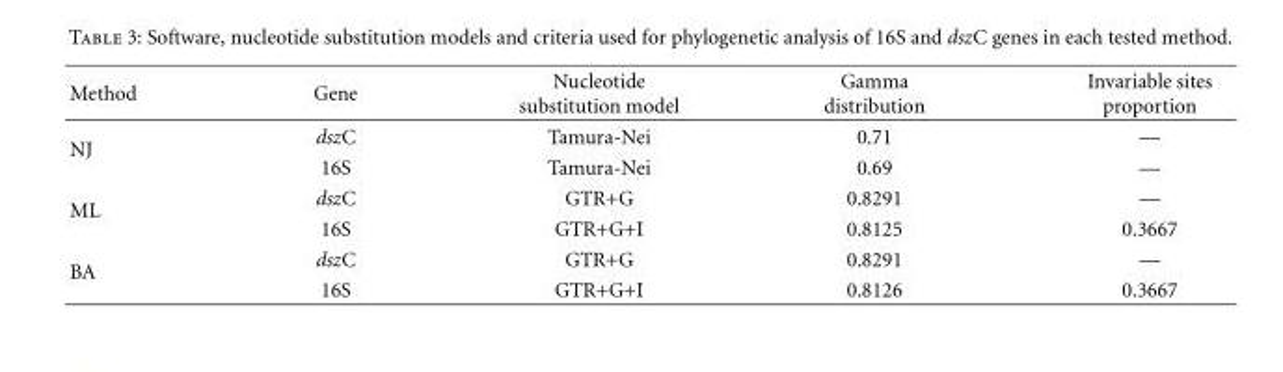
<table><thead><tr><td>Method</td><td>Gene</td><td>Nucleotide substitution model</td><td>Gamma distribution</td><td>Invariable sites proportion</td></tr></thead><tbody><tr><td rowspan="2">NJ</td><td>dszC</td><td>Tamura-Nei</td><td>0.71</td><td>—</td></tr><tr><td>16S</td><td>Tamura-Nei</td><td>0.69</td><td>—</td></tr><tr><td rowspan="2">ML</td><td>dszC</td><td>GTR+G</td><td>0.8291</td><td>—</td></tr><tr><td>16S</td><td>GTR+G+I</td><td>0.8125</td><td>0.3667</td></tr><tr><td rowspan="2">BA</td><td>dszC</td><td>GTR+G</td><td>0.8291</td><td>—</td></tr><tr><td>16S</td><td>GTR+G+I</td><td>0.8126</td><td>0.3667</td></tr></tbody></table>